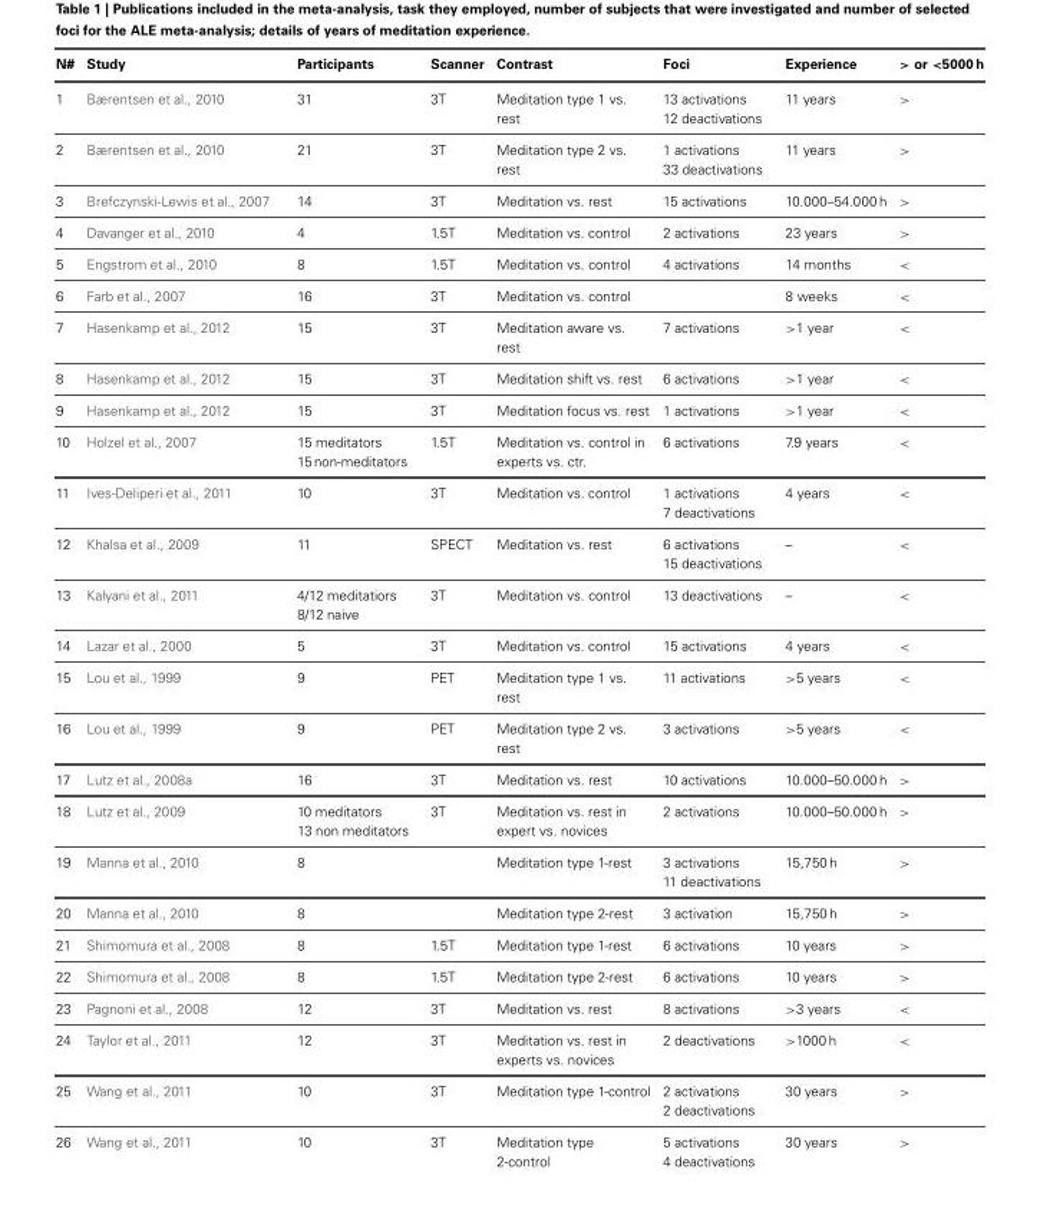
<table><thead><tr><td>N#</td><td>Study</td><td>Participants</td><td>Scanner</td><td>Contrast</td><td>Foci</td><td>Experience</td><td>&gt; or &lt;5000 h</td></tr></thead><tbody><tr><td>1</td><td>Bærentsen et al., 2010</td><td>31</td><td>3T</td><td>Meditation type 1 vs. rest</td><td>13 activations 12 deactivations</td><td>11 years</td><td>&gt;</td></tr><tr><td>2</td><td>Bærentsen et al., 2010</td><td>21</td><td>3T</td><td>Meditation type 2 vs. rest</td><td>1 activations 33 deactivations</td><td>11 years</td><td>&gt;</td></tr><tr><td>3</td><td>Brefczynski-Lewis et al., 2007</td><td>14</td><td>3T</td><td>Meditation vs. rest</td><td>15 activations</td><td>10.000–54.000 h</td><td>&gt;</td></tr><tr><td>4</td><td>Davanger et al., 2010</td><td>4</td><td>1.5T</td><td>Meditation vs. control</td><td>2 activations</td><td>23 years</td><td>&gt;</td></tr><tr><td>5</td><td>Engstrom et al., 2010</td><td>8</td><td>1.5T</td><td>Meditation vs. control</td><td>4 activations</td><td>14 months</td><td>&lt;</td></tr><tr><td>6</td><td>Farb et al., 2007</td><td>16</td><td>3T</td><td>Meditation vs. control</td><td></td><td>8 weeks</td><td>&lt;</td></tr><tr><td>7</td><td>Hasenkamp et al., 2012</td><td>15</td><td>3T</td><td>Meditation aware vs. rest</td><td>7 activations</td><td>&gt;1 year</td><td>&lt;</td></tr><tr><td>8</td><td>Hasenkamp et al., 2012</td><td>15</td><td>3T</td><td>Meditation shift vs. rest</td><td>6 activations</td><td>&gt;1 year</td><td>&lt;</td></tr><tr><td>9</td><td>Hasenkamp et al., 2012</td><td>15</td><td>3T</td><td>Meditation focus vs. rest</td><td>1 activations</td><td>&gt;1 year</td><td>&lt;</td></tr><tr><td>10</td><td>Holzel et al., 2007</td><td>15 meditators 15non-meditators</td><td>1.5T</td><td>Meditation vs. control in experts vs. ctr.</td><td>6 activations</td><td>7.9 years</td><td>&lt;</td></tr><tr><td>11</td><td>Ives-Deliperi et al., 2011</td><td>10</td><td>3T</td><td>Meditation vs. control</td><td>1 activations 7 deactivations</td><td>4 years</td><td>&lt;</td></tr><tr><td>12</td><td>Khalsa et al., 2009</td><td>11</td><td>SPECT</td><td>Meditation vs. rest</td><td>6 activations 15 deactivations</td><td>–</td><td>&lt;</td></tr><tr><td>13</td><td>Kalyani et al., 2011</td><td>4/12 meditatiors 8/12 naive</td><td>3T</td><td>Meditation vs. control</td><td>13 deactivations</td><td>–</td><td>&lt;</td></tr><tr><td>14</td><td>Lazar et al., 2000</td><td>5</td><td>3T</td><td>Meditation vs. control</td><td>15 activations</td><td>4 years</td><td>&lt;</td></tr><tr><td>15</td><td>Lou et al., 1999</td><td>9</td><td>PET</td><td>Meditation type 1 vs. rest</td><td>11 activations</td><td>&gt;5 years</td><td>&lt;</td></tr><tr><td>16</td><td>Lou et al., 1999</td><td>9</td><td>PET</td><td>Meditation type 2 vs. rest</td><td>3 activations</td><td>&gt;5 years</td><td>&lt;</td></tr><tr><td>17</td><td>Lutz et al., 2008a</td><td>16</td><td>3T</td><td>Meditation vs. rest</td><td>10 activations</td><td>10.000–50.000 h</td><td>&gt;</td></tr><tr><td>18</td><td>Lutz et al., 2009</td><td>10 meditators 13 non meditators</td><td>3T</td><td>Meditation vs. rest in expert vs. novices</td><td>2 activations</td><td>10.000–50.000 h</td><td>&gt;</td></tr><tr><td>19</td><td>Manna et al., 2010</td><td>8</td><td></td><td>Meditation type 1-rest</td><td>3 activations 11 deactivations</td><td>15,750 h</td><td>&gt;</td></tr><tr><td>20</td><td>Manna et al., 2010</td><td>8</td><td></td><td>Meditation type 2-rest</td><td>3 activation</td><td>15,750 h</td><td>&gt;</td></tr><tr><td>21</td><td>Shimomura et al., 2008</td><td>8</td><td>1.5T</td><td>Meditation type 1-rest</td><td>6 activations</td><td>10 years</td><td>&gt;</td></tr><tr><td>22</td><td>Shimomura et al., 2008</td><td>8</td><td>1.5T</td><td>Meditation type 2-rest</td><td>6 activations</td><td>10 years</td><td>&gt;</td></tr><tr><td>23</td><td>Pagnoni et al., 2008</td><td>12</td><td>3T</td><td>Meditation vs. rest</td><td>8 activations</td><td>&gt;3 years</td><td>&lt;</td></tr><tr><td>24</td><td>Taylor et al., 2011</td><td>12</td><td>3T</td><td>Meditation vs. rest in experts vs. novices</td><td>2 deactivations</td><td>&gt;1000 h</td><td>&lt;</td></tr><tr><td>25</td><td>Wang et al., 2011</td><td>10</td><td>3T</td><td>Meditation type 1-control</td><td>2 activations 2 deactivations</td><td>30 years</td><td>&gt;</td></tr><tr><td>26</td><td>Wang et al., 2011</td><td>10</td><td>3T</td><td>Meditation type 2-control</td><td>5 activations 4 deactivations</td><td>30 years</td><td>&gt;</td></tr></tbody></table>